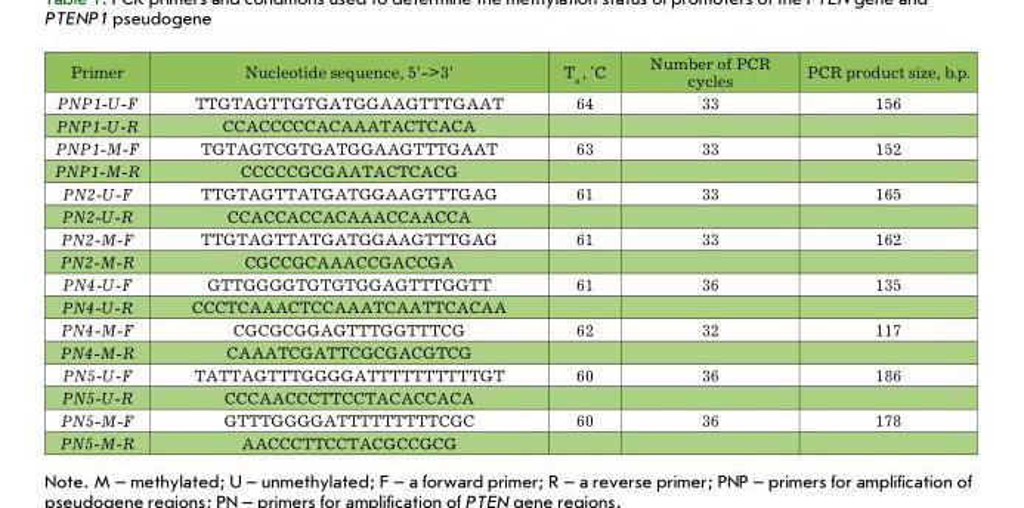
<table><thead><tr><td>Primer</td><td>Nucleotide sequence, 5’-&gt;3’</td><td>T<sub>a.</sub>, °C</td><td>Number of PCR cycles</td><td>PCR product size, b.p.</td></tr></thead><tbody><tr><td>PNP1-U-F</td><td>TTGTAGTTGTGATGGAAGTTTGAAT</td><td>64</td><td>33</td><td>156</td></tr><tr><td>PNP1-U-R</td><td>CCACCCCCACAAATACTCACA</td><td></td><td></td><td></td></tr><tr><td>PNP1-M-F</td><td>TGTAGTCGTGATGGAAGTTTGAAT</td><td>63</td><td>33</td><td>152</td></tr><tr><td>PNP1-M-R</td><td>CCCCCGCGAATACTCACG</td><td></td><td></td><td></td></tr><tr><td>PN2-U-F</td><td>TTGTAGTTATGATGGAAGTTTGAG</td><td>61</td><td>33</td><td>165</td></tr><tr><td>PN2-U-R</td><td>CCACCACCACAAACCAACCA</td><td></td><td></td><td></td></tr><tr><td>PN2-M-F</td><td>TTGTAGTTATGATGGAAGTTTGAG</td><td>61</td><td>33</td><td>162</td></tr><tr><td>PN2-M-R</td><td>CGCCGCAAACCGACCGA</td><td></td><td></td><td></td></tr><tr><td>PN4-U-F</td><td>GTTGGGGTGTGTGGAGTTTGGTT</td><td>61</td><td>36</td><td>135</td></tr><tr><td>PN4-U-R</td><td>CCCTCAAACTCCAAATCAATTCACAA</td><td></td><td></td><td></td></tr><tr><td>PN4-M-F</td><td>CGCGCGGAGTTTGGTTTCG</td><td>62</td><td>32</td><td>117</td></tr><tr><td>PN4-M-R</td><td>CAAATCGATTCGCGACGTCG</td><td></td><td></td><td></td></tr><tr><td>PN5-U-F</td><td>TATTAGTTTGGGGATTTTTTTTTTGT</td><td>60</td><td>36</td><td>186</td></tr><tr><td>PN5-U-R</td><td>CCCAACCCTTCCTACACCACA</td><td></td><td></td><td></td></tr><tr><td>PN5-M-F</td><td>GTTTGGGGATTTTTTTTTCGC</td><td>60</td><td>36</td><td>178</td></tr><tr><td>PN5-M-R</td><td>AACCCTTCCTACGCCGCG</td><td></td><td></td><td></td></tr></tbody></table>